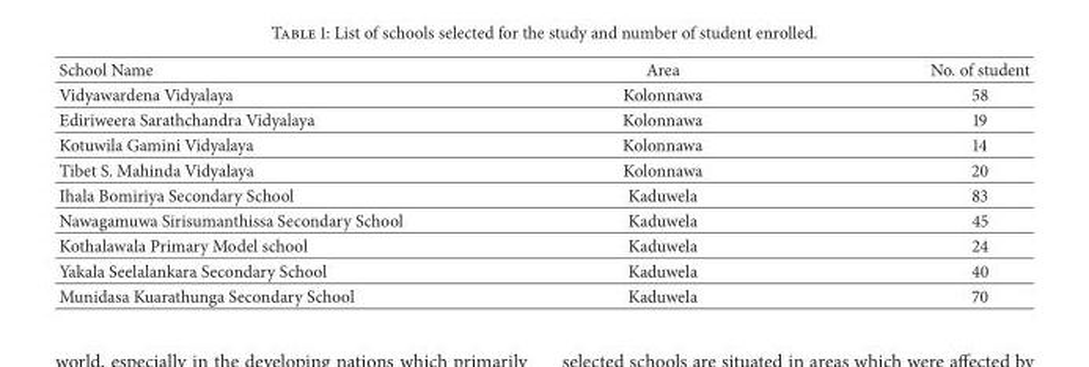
<table><thead><tr><td>School Name</td><td>Area</td><td>No. of student</td></tr></thead><tbody><tr><td>Vidyawardena Vidyalaya</td><td>Kolonnawa</td><td>58</td></tr><tr><td>Ediriweera Sarathchandra Vidyalaya</td><td>Kolonnawa</td><td>19</td></tr><tr><td>Kotuwila Gamini Vidyalaya</td><td>Kolonnawa</td><td>14</td></tr><tr><td>Tibet S. Mahinda Vidyalaya</td><td>Kolonnawa</td><td>20</td></tr><tr><td>Ihala Bomiriya Secondary School</td><td>Kaduwela</td><td>83</td></tr><tr><td>Nawagamuwa Sirisumanthissa Secondary School</td><td>Kaduwela</td><td>45</td></tr><tr><td>Kothalawala Primary Model school</td><td>Kaduwela</td><td>24</td></tr><tr><td>Yakala Seelalankara Secondary School</td><td>Kaduwela</td><td>40</td></tr><tr><td>Munidasa Kuarathunga Secondary School</td><td>Kaduwela</td><td>70</td></tr></tbody></table>